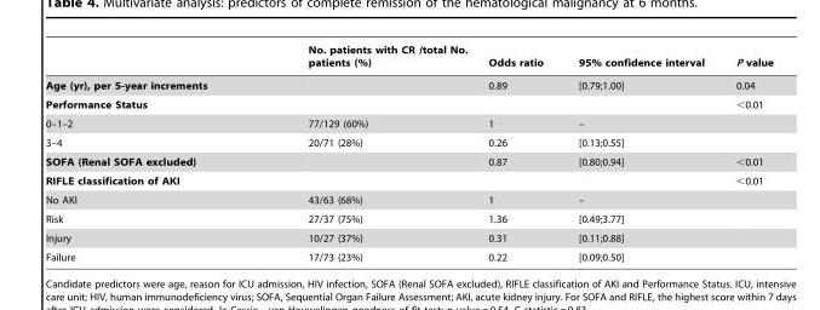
<table><thead><tr><td></td><td>No. patients with CR /total No. patients (%)</td><td>Odds ratio</td><td>95% confidence interval</td><td>P value</td></tr></thead><tbody><tr><td>Age (yr), per 5-year increments</td><td></td><td>0.89</td><td>[0.79;1.00]</td><td>0.04</td></tr><tr><td>Performance Status</td><td></td><td></td><td></td><td>&lt;0.01</td></tr><tr><td>0–1–2</td><td>77/129 (60%)</td><td>1</td><td>–</td><td></td></tr><tr><td>3–4</td><td>20/71 (28%)</td><td>0.26</td><td>[0.13;0.55]</td><td></td></tr><tr><td>SOFA (Renal SOFA excluded)</td><td></td><td>0.87</td><td>[0.80;0.94]</td><td>&lt;0.01</td></tr><tr><td>RIFLE classification of AKI</td><td></td><td></td><td></td><td>&lt;0.01</td></tr><tr><td>No AKI</td><td>43/63 (68%)</td><td>1</td><td>–</td><td></td></tr><tr><td>Risk</td><td>27/37 (75%)</td><td>1.36</td><td>[0.49;3.77]</td><td></td></tr><tr><td>Injury</td><td>10/27 (37%)</td><td>0.31</td><td>[0.11;0.88]</td><td></td></tr><tr><td>Failure</td><td>17/73 (23%)</td><td>0.22</td><td>[0.09;0.50]</td><td></td></tr></tbody></table>